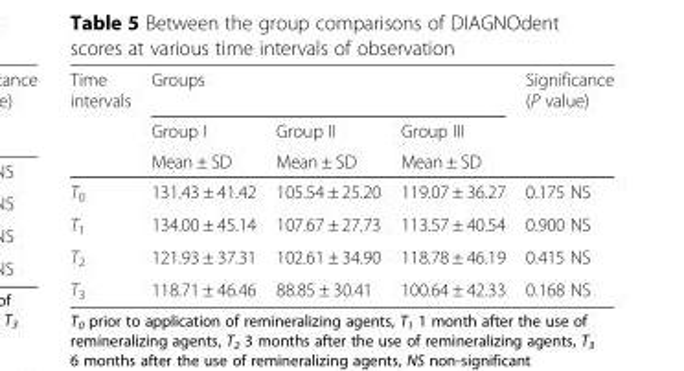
<table><thead><tr><td rowspan="3">Time intervals</td><td colspan="3">Groups</td><td rowspan="3">Significance (P value)</td></tr><tr><td rowspan="2">Group I Mean ± SD</td><td rowspan="2">Group II Mean ± SD</td><td rowspan="2">Group III Mean ± SD</td></tr><tr></tr></thead><tbody><tr><td>T<sub>0</sub></td><td>131.43 ± 41.42</td><td>105.54 ± 25.20</td><td>119.07 ± 36.27</td><td>0.175 NS</td></tr><tr><td>T<sub>1</sub></td><td>134.00 ± 45.14</td><td>107.67 ± 27.73</td><td>113.57 ± 40.54</td><td>0.900 NS</td></tr><tr><td>T<sub>2</sub></td><td>121.93 ± 37.31</td><td>102.61 ± 34.90</td><td>118.78 ± 46.19</td><td>0.415 NS</td></tr><tr><td>T<sub>3</sub></td><td>118.71 ± 46.46</td><td>88.85 ± 30.41</td><td>100.64 ± 42.33</td><td>0.168 NS</td></tr></tbody></table>